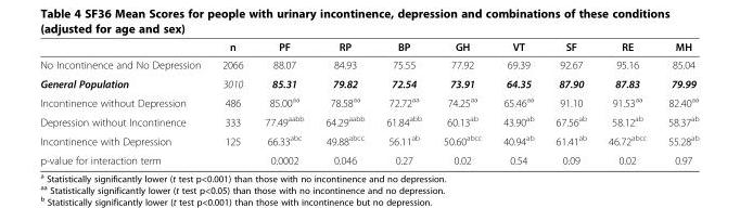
<table><thead><tr><td></td><td>n</td><td>PF</td><td>RP</td><td>BP</td><td>GH</td><td>VT</td><td>SF</td><td>RE</td><td>MH</td></tr></thead><tbody><tr><td>No Incontinence and No Depression</td><td>2066</td><td>88.07</td><td>84.93</td><td>75.55</td><td>77.92</td><td>69.39</td><td>92.67</td><td>95.16</td><td>85.04</td></tr><tr><td>General Population</td><td>3010</td><td>85.31</td><td>79.82</td><td>72.54</td><td>73.91</td><td>64.35</td><td>87.90</td><td>87.83</td><td>79.99</td></tr><tr><td>Incontinence without Depression</td><td>486</td><td>85.00<sup>aa</sup></td><td>78.58<sup>aa</sup></td><td>72.72<sup>aa</sup></td><td>74.25<sup>aa</sup></td><td>65.46<sup>aa</sup></td><td>91.10</td><td>91.53<sup>aa</sup></td><td>82.40<sup>aa</sup></td></tr><tr><td>Depression without Incontinence</td><td>333</td><td>77.49<sup>aabb</sup></td><td>64.29<sup>aabb</sup></td><td>61.84<sup>abb</sup></td><td>60.13<sup>ab</sup></td><td>43.90<sup>ab</sup></td><td>67.56<sup>ab</sup></td><td>58.12<sup>ab</sup></td><td>58.37<sup>ab</sup></td></tr><tr><td>Incontinence with Depression</td><td>125</td><td>66.33<sup>abc</sup></td><td>49.88<sup>abcc</sup></td><td>56.11<sup>ab</sup></td><td>50.60<sup>abcc</sup></td><td>40.94<sup>ab</sup></td><td>61.41<sup>ab</sup></td><td>46.72<sup>abcc</sup></td><td>55.28<sup>ab</sup></td></tr><tr><td>p-value for interaction term</td><td></td><td>0.0002</td><td>0.046</td><td>0.27</td><td>0.02</td><td>0.54</td><td>0.09</td><td>0.02</td><td>0.97</td></tr></tbody></table>